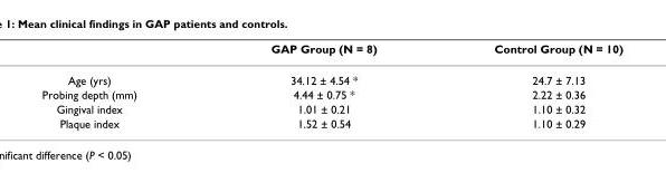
<table><thead><tr><td></td><td>GAP Group (N = 8)</td><td>Control Group (N = 10)</td></tr></thead><tbody><tr><td>Age (yrs)</td><td>34.12 ± 4.54 *</td><td>24.7 ± 7.13</td></tr><tr><td>Probing depth (mm)</td><td>4.44 ± 0.75 *</td><td>2.22 ± 0.36</td></tr><tr><td>Gingival index</td><td>1.01 ± 0.21</td><td>1.10 ± 0.32</td></tr><tr><td>Plaque index</td><td>1.52 ± 0.54</td><td>1.10 ± 0.29</td></tr></tbody></table>